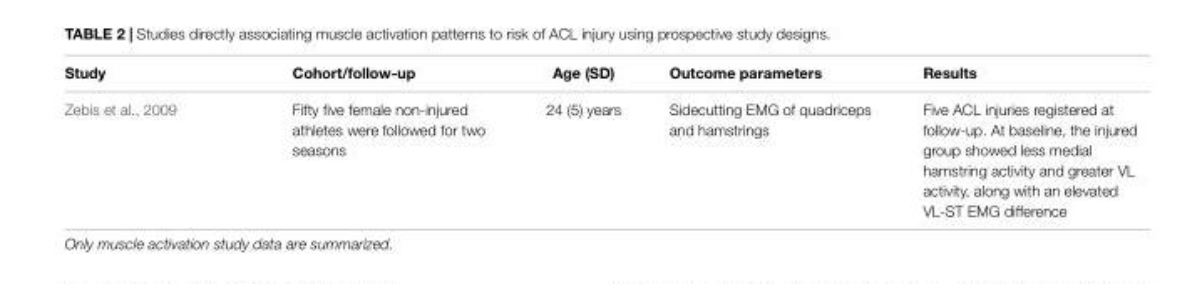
<table><thead><tr><td>Study</td><td>Cohort/follow-up</td><td>Age (SD)</td><td>Outcome parameters</td><td>Results</td></tr></thead><tbody><tr><td>Zebis et al., 2009</td><td>Fifty five female non-injured athletes were followed for two seasons</td><td>24 (5) years</td><td>Sidecutting EMG of quadriceps and hamstrings</td><td>Five ACL injuries registered at follow-up. At baseline, the injured group showed less medial hamstring activity and greater VL activity, along with an elevated VL-ST EMG difference</td></tr></tbody></table>